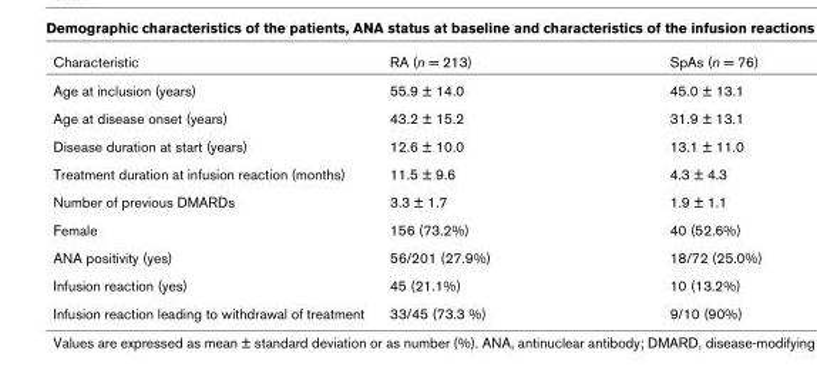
<table><thead><tr><td>Characteristic</td><td>RA (n = 213)</td><td>SpAs (n = 76)</td></tr></thead><tbody><tr><td>Age at inclusion (years)</td><td>55.9 ± 14.0</td><td>45.0 ± 13.1</td></tr><tr><td>Age at disease onset (years)</td><td>43.2 ± 15.2</td><td>31.9 ± 13.1</td></tr><tr><td>Disease duration at start (years)</td><td>12.6 ± 10.0</td><td>13.1 ± 11.0</td></tr><tr><td>Treatment duration at infusion reaction (months)</td><td>11.5 ± 9.6</td><td>4.3 ± 4.3</td></tr><tr><td>Number of previous DMARDs</td><td>3.3 ± 1.7</td><td>1.9 ± 1.1</td></tr><tr><td>Female</td><td>156 (73.2%)</td><td>40 (52.6%)</td></tr><tr><td>ANA positivity (yes)</td><td>56/201 (27.9%)</td><td>18/72 (25.0%)</td></tr><tr><td>Infusion reaction (yes)</td><td>45 (21.1%)</td><td>10 (13.2%)</td></tr><tr><td>Infusion reaction leading to withdrawal of treatment</td><td>33/45 (73.3 %)</td><td>9/10 (90%)</td></tr></tbody></table>